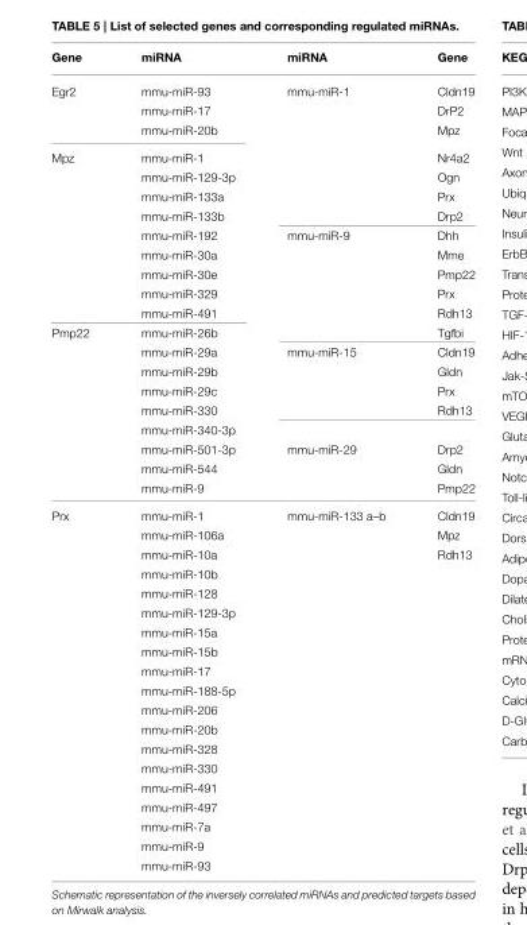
<table><thead><tr><td>Gene</td><td>miRNA</td><td>miRNA</td><td>Gene</td></tr></thead><tbody><tr><td rowspan="3">Egr2</td><td>mmu-miR-93</td><td>mmu-miR-1</td><td>Cldn19</td></tr><tr><td>mmu-miR-17</td><td></td><td>DrP2</td></tr><tr><td>mmu-miR-20b</td><td></td><td>Mpz</td></tr><tr><td rowspan="9">Mpz</td><td>mmu-miR-1</td><td></td><td>Nr4a2</td></tr><tr><td>mmu-miR-129-3p</td><td></td><td>Ogn</td></tr><tr><td>mmu-miR-133a</td><td></td><td>Prx</td></tr><tr><td>mmu-miR-133b</td><td></td><td>Drp2</td></tr><tr><td>mmu-miR-192</td><td>mmu-miR-9</td><td>Dhh</td></tr><tr><td>mmu-miR-30a</td><td></td><td>Mme</td></tr><tr><td>mmu-miR-30e</td><td></td><td>Pmp22</td></tr><tr><td>mmu-miR-329</td><td></td><td>Prx</td></tr><tr><td>mmu-miR-491</td><td></td><td>Rdh13</td></tr><tr><td rowspan="9">Pmp22</td><td>mmu-miR-26b</td><td></td><td>Tgfbi</td></tr><tr><td>mmu-miR-29a</td><td>mmu-miR-15</td><td>Cldn19</td></tr><tr><td>mmu-miR-29b</td><td></td><td>Gldn</td></tr><tr><td>mmu-miR-29c</td><td></td><td>Prx</td></tr><tr><td>mmu-miR-330</td><td></td><td>Rdh13</td></tr><tr><td>mmu-miR-340-3p</td><td></td><td></td></tr><tr><td>mmu-miR-501-3p</td><td>mmu-miR-29</td><td>Drp2</td></tr><tr><td>mmu-miR-544</td><td></td><td>Gldn</td></tr><tr><td>mmu-miR-9</td><td></td><td>Pmp22</td></tr><tr><td rowspan="19">Prx</td><td>mmu-miR-1</td><td>mmu-miR-133 a–b</td><td>Cldn19</td></tr><tr><td>mmu-miR-106a</td><td></td><td>Mpz</td></tr><tr><td>mmu-miR-10a</td><td></td><td>Rdh13</td></tr><tr><td>mmu-miR-10b</td><td></td><td></td></tr><tr><td>mmu-miR-128</td><td></td><td></td></tr><tr><td>mmu-miR-129-3p</td><td></td><td></td></tr><tr><td>mmu-miR-15a</td><td></td><td></td></tr><tr><td>mmu-miR-15b</td><td></td><td></td></tr><tr><td>mmu-miR-17</td><td></td><td></td></tr><tr><td>mmu-miR-188-5p</td><td></td><td></td></tr><tr><td>mmu-miR-206</td><td></td><td></td></tr><tr><td>mmu-miR-20b</td><td></td><td></td></tr><tr><td>mmu-miR-328</td><td></td><td></td></tr><tr><td>mmu-miR-330</td><td></td><td></td></tr><tr><td>mmu-miR-491</td><td></td><td></td></tr><tr><td>mmu-miR-497</td><td></td><td></td></tr><tr><td>mmu-miR-7a</td><td></td><td></td></tr><tr><td>mmu-miR-9</td><td></td><td></td></tr><tr><td>mmu-miR-93</td><td></td><td></td></tr></tbody></table>